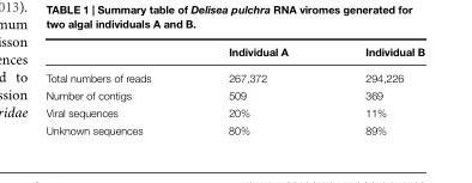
<table><thead><tr><td></td><td>Individual A</td><td>Individual B</td></tr></thead><tbody><tr><td>Total numbers of reads</td><td>267,372</td><td>294,226</td></tr><tr><td>Number of contigs</td><td>509</td><td>369</td></tr><tr><td>Viral sequences</td><td>20%</td><td>11%</td></tr><tr><td>Unknown sequences</td><td>80%</td><td>89%</td></tr></tbody></table>